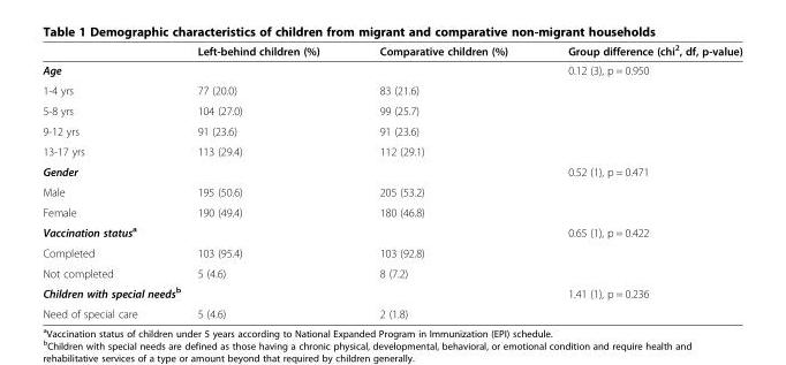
<table><thead><tr><td></td><td>Left-behind children (%)</td><td>Comparative children (%)</td><td>Group difference (chi<sup>2</sup>, df, p-value)</td></tr></thead><tbody><tr><td>Age</td><td></td><td></td><td>0.12 (3), p = 0.950</td></tr><tr><td>1-4 yrs</td><td>77 (20.0)</td><td>83 (21.6)</td><td></td></tr><tr><td>5-8 yrs</td><td>104 (27.0)</td><td>99 (25.7)</td><td></td></tr><tr><td>9-12 yrs</td><td>91 (23.6)</td><td>91 (23.6)</td><td></td></tr><tr><td>13-17 yrs</td><td>113 (29.4)</td><td>112 (29.1)</td><td></td></tr><tr><td colspan="3">Gender</td><td>0.52 (1), p = 0.471</td></tr><tr><td>Male</td><td>195 (50.6)</td><td>205 (53.2)</td><td></td></tr><tr><td>Female</td><td>190 (49.4)</td><td>180 (46.8)</td><td></td></tr><tr><td colspan="3">Vaccination status<sup>a</sup></td><td>0.65 (1), p = 0.422</td></tr><tr><td>Completed</td><td>103 (95.4)</td><td>103 (92.8)</td><td></td></tr><tr><td>Not completed</td><td>5 (4.6)</td><td>8 (7.2)</td><td></td></tr><tr><td colspan="3">Children with special needs<sup>b</sup></td><td>1.41 (1), p = 0.236</td></tr><tr><td>Need of special care</td><td>5 (4.6)</td><td>2 (1.8)</td><td></td></tr></tbody></table>